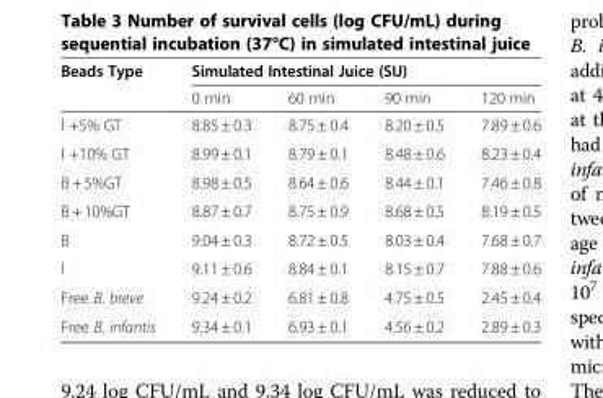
<table><thead><tr><td rowspan="2">Beads Type</td><td colspan="4">Simulated Intestinal Juice (SIJ)</td></tr><tr><td>0 min</td><td>60 min</td><td>90 min</td><td>120 min</td></tr></thead><tbody><tr><td>I +5% GT</td><td>8.85 ± 0.3</td><td>8.75 ± 0.4</td><td>8.20 ± 0.5</td><td>7.89 ± 0.6</td></tr><tr><td>I +10% GT</td><td>8.99 ± 0.1</td><td>8.79 ± 0.1</td><td>8.48 ± 0.6</td><td>8.23 ± 0.4</td></tr><tr><td>B + 5%GT</td><td>8.98 ± 0.5</td><td>8.64 ± 0.6</td><td>8.44 ± 0.1</td><td>7.46 ± 0.8</td></tr><tr><td>B + 10%GT</td><td>8.87 ± 0.7</td><td>8.75 ± 0.9</td><td>8.68 ± 0.5</td><td>8.19 ± 0.5</td></tr><tr><td>B</td><td>9.04 ± 0.3</td><td>8.72 ± 0.5</td><td>8.03 ± 0.4</td><td>7.68 ± 0.7</td></tr><tr><td>I</td><td>9.11 ± 0.6</td><td>8.84 ± 0.1</td><td>8.15 ± 0.7</td><td>7.88 ± 0.6</td></tr><tr><td>Free B. breve</td><td>9.24 ± 0.2</td><td>6.81 ± 0.8</td><td>4.75 ± 0.5</td><td>2.45 ± 0.4</td></tr><tr><td>Free B. infantis</td><td>9.34 ± 0.1</td><td>6.93 ± 0.1</td><td>4.56 ± 0.2</td><td>2.89 ± 0.3</td></tr></tbody></table>